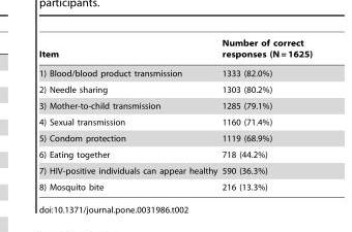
<table><thead><tr><td>Item</td><td>Number of correct responses (N = 1625)</td></tr></thead><tbody><tr><td>1) Blood/blood product transmission</td><td>1333 (82.0%)</td></tr><tr><td>2) Needle sharing</td><td>1303 (80.2%)</td></tr><tr><td>3) Mother-to-child transmission</td><td>1285 (79.1%)</td></tr><tr><td>4) Sexual transmission</td><td>1160 (71.4%)</td></tr><tr><td>5) Condom protection</td><td>1119 (68.9%)</td></tr><tr><td>6) Eating together</td><td>718 (44.2%)</td></tr><tr><td>7) HIV-positive individuals can appear healthy</td><td>590 (36.3%)</td></tr><tr><td>8) Mosquito bite</td><td>216 (13.3%)</td></tr></tbody></table>